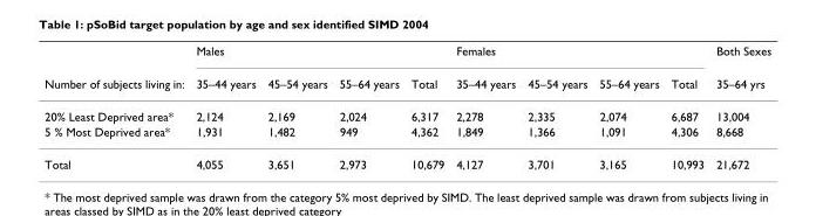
<table><thead><tr><td rowspan="2">Number of subjects living in:</td><td colspan="4">Males</td><td colspan="4">Females</td><td rowspan="2">Both Sexes 35–64 yrs</td></tr><tr><td>35–44 years</td><td>45–54 years</td><td>55–64 years</td><td>Total</td><td>35–44 years</td><td>45–54 years</td><td>55–64 years</td><td>Total</td></tr></thead><tbody><tr><td>20% Least Deprived area*</td><td>2,124</td><td>2,169</td><td>2,024</td><td>6,317</td><td>2,278</td><td>2,335</td><td>2,074</td><td>6,687</td><td>13,004</td></tr><tr><td>5 % Most Deprived area*</td><td>1,931</td><td>1,482</td><td>949</td><td>4,362</td><td>1,849</td><td>1,366</td><td>1,091</td><td>4,306</td><td>8,668</td></tr><tr><td>Total</td><td>4,055</td><td>3,651</td><td>2,973</td><td>10,679</td><td>4,127</td><td>3,701</td><td>3,165</td><td>10,993</td><td>21,672</td></tr></tbody></table>